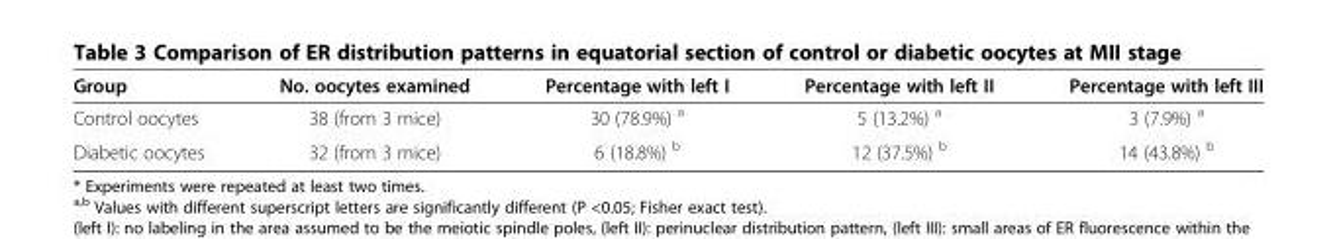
<table><thead><tr><td>Group</td><td>No. oocytes examined</td><td>Percentage with left I</td><td>Percentage with left II</td><td>Percentage with left III</td></tr></thead><tbody><tr><td>Control oocytes</td><td>38 (from 3 mice)</td><td>30 (78.9%) <sup>a</sup></td><td>5 (13.2%) <sup>a</sup></td><td>3 (7.9%) <sup>a</sup></td></tr><tr><td>Diabetic oocytes</td><td>32 (from 3 mice)</td><td>6 (18.8%) <sup>b</sup></td><td>12 (37.5%) <sup>b</sup></td><td>14 (43.8%) <sup>b</sup></td></tr></tbody></table>